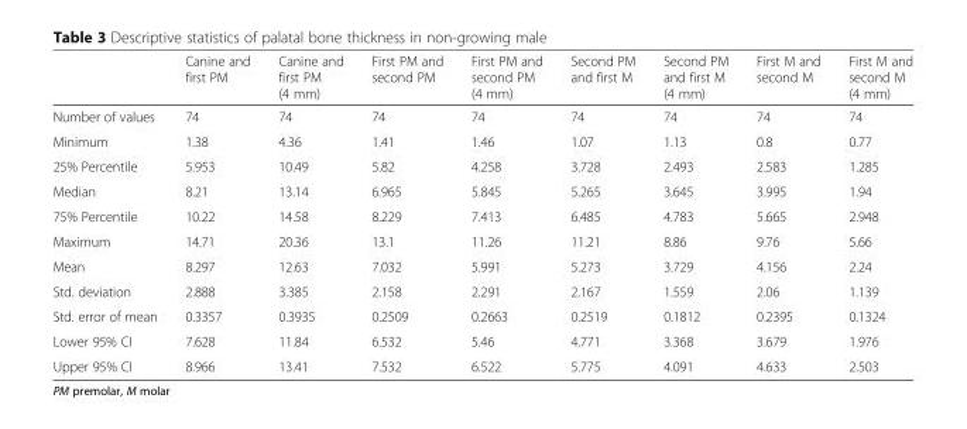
<table><thead><tr><td></td><td>Canine and first PM</td><td>Canine and first PM (4 mm)</td><td>First PM and second PM</td><td>First PM and second PM (4 mm)</td><td>Second PM and first M</td><td>Second PM and first M (4 mm)</td><td>First M and second M</td><td>First M and second M (4 mm)</td></tr></thead><tbody><tr><td>Number of values</td><td>74</td><td>74</td><td>74</td><td>74</td><td>74</td><td>74</td><td>74</td><td>74</td></tr><tr><td>Minimum</td><td>1.38</td><td>4.36</td><td>1.41</td><td>1.46</td><td>1.07</td><td>1.13</td><td>0.8</td><td>0.77</td></tr><tr><td>25% Percentile</td><td>5.953</td><td>10.49</td><td>5.82</td><td>4.258</td><td>3.728</td><td>2.493</td><td>2.583</td><td>1.285</td></tr><tr><td>Median</td><td>8.21</td><td>13.14</td><td>6.965</td><td>5.845</td><td>5.265</td><td>3.645</td><td>3.995</td><td>1.94</td></tr><tr><td>75% Percentile</td><td>10.22</td><td>14.58</td><td>8.229</td><td>7.413</td><td>6.485</td><td>4.783</td><td>5.665</td><td>2.948</td></tr><tr><td>Maximum</td><td>14.71</td><td>20.36</td><td>13.1</td><td>11.26</td><td>11.21</td><td>8.86</td><td>9.76</td><td>5.66</td></tr><tr><td>Mean</td><td>8.297</td><td>12.63</td><td>7.032</td><td>5.991</td><td>5.273</td><td>3.729</td><td>4.156</td><td>2.24</td></tr><tr><td>Std. deviation</td><td>2.888</td><td>3.385</td><td>2.158</td><td>2.291</td><td>2.167</td><td>1.559</td><td>2.06</td><td>1.139</td></tr><tr><td>Std. error of mean</td><td>0.3357</td><td>0.3935</td><td>0.2509</td><td>0.2663</td><td>0.2519</td><td>0.1812</td><td>0.2395</td><td>0.1324</td></tr><tr><td>Lower 95% CI</td><td>7.628</td><td>11.84</td><td>6.532</td><td>5.46</td><td>4.771</td><td>3.368</td><td>3.679</td><td>1.976</td></tr><tr><td>Upper 95% CI</td><td>8.966</td><td>13.41</td><td>7.532</td><td>6.522</td><td>5.775</td><td>4.091</td><td>4.633</td><td>2.503</td></tr></tbody></table>